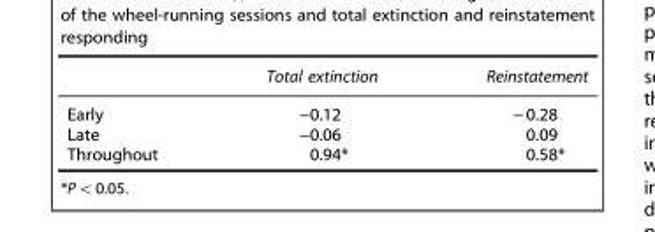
<table><thead><tr><td></td><td>Total extinction</td><td>Reinstatement</td></tr></thead><tbody><tr><td>Early</td><td>−0.12</td><td>− 0.28</td></tr><tr><td>Late</td><td>−0.06</td><td>0.09</td></tr><tr><td>Throughout</td><td>0.94*</td><td>0.58*</td></tr></tbody></table>